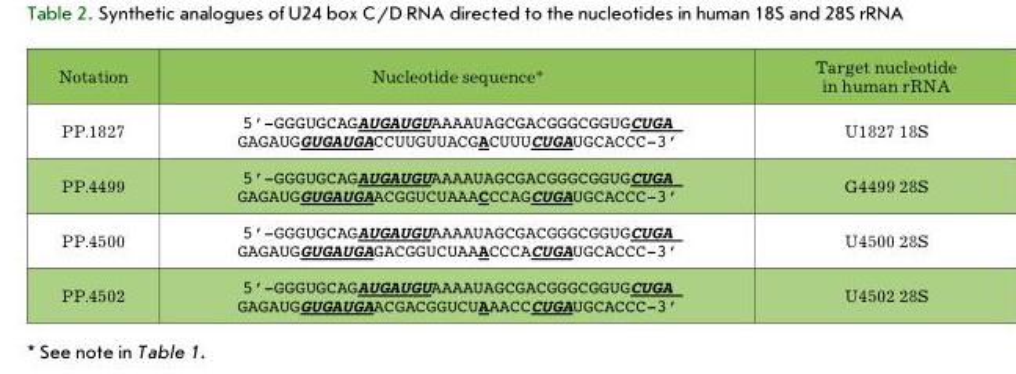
<table><thead><tr><td>notation</td><td>nucleotide sequence*</td><td>target nucleotide in human rrnA</td></tr></thead><tbody><tr><td>РР.1827</td><td>5’-GGGUGCAGAUGAUGUAAAAUAGCGACGGGCGGUGCUGA GAGAUGGUGAUGACCUUGUUACGACUUUCUGAUGCACCC-3’</td><td>u1827 18S</td></tr><tr><td>РР.4499</td><td>5’-GGGUGCAGAUGAUGUAAAAUAGCGACGGGCGGUGCUGA GAGAUGGUGAUGAACGGUCUAAACCCAGCUGAUGCACCC-3’</td><td>G4499 28S</td></tr><tr><td>РР.4500</td><td>5’-GGGUGCAGAUGAUGUAAAAUAGCGACGGGCGGUGCUGA GAGAUGGUGAUGAGACGGUCUAAACCCACUGAUGCACCC-3’</td><td>u4500 28S</td></tr><tr><td>РР.4502</td><td>5’-GGGUGCAGAUGAUGUAAAAUAGCGACGGGCGGUGCUGA GAGAUGGUGAUGAACGACGGUCUAAACCCUGAUGCACCC-3’</td><td>u4502 28S</td></tr></tbody></table>